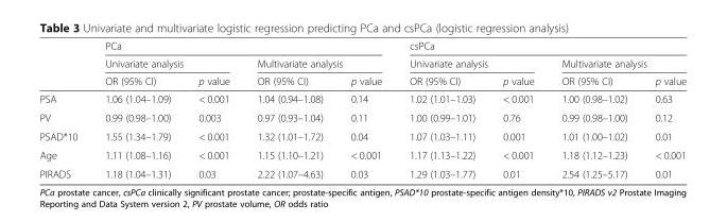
<table><thead><tr><td rowspan="3"></td><td colspan="4">PCa</td><td colspan="4">csPCa</td></tr><tr><td colspan="2">Univariate analysis</td><td colspan="2">Multivariate analysis</td><td colspan="2">Univariate analysis</td><td colspan="2">Multivariate analysis</td></tr><tr><td>OR (95% CI)</td><td>p value</td><td>OR (95% CI)</td><td>p value</td><td>OR (95% CI)</td><td>p value</td><td>OR (95% CI)</td><td>p value</td></tr></thead><tbody><tr><td>PSA</td><td>1.06 (1.04–1.09)</td><td>&lt; 0.001</td><td>1.04 (0.94–1.08)</td><td>0.14</td><td>1.02 (1.01–1.03)</td><td>&lt; 0.001</td><td>1.00 (0.98–1.02)</td><td>0.63</td></tr><tr><td>PV</td><td>0.99 (0.98–1.00)</td><td>0.003</td><td>0.97 (0.93–1.04)</td><td>0.11</td><td>1.00 (0.99–1.01)</td><td>0.76</td><td>0.99 (0.98–1.00)</td><td>0.12</td></tr><tr><td>PSAD*10</td><td>1.55 (1.34–1.79)</td><td>&lt; 0.001</td><td>1.32 (1.01–1.72)</td><td>0.04</td><td>1.07 (1.03–1.11)</td><td>0.001</td><td>1.01 (1.00–1.02)</td><td>0.01</td></tr><tr><td>Age</td><td>1.11 (1.08–1.16)</td><td>&lt; 0.001</td><td>1.15 (1.10–1.21)</td><td>&lt; 0.001</td><td>1.17 (1.13–1.22)</td><td>&lt; 0.001</td><td>1.18 (1.12–1.23)</td><td>&lt; 0.001</td></tr><tr><td>PIRADS</td><td>1.18 (1.04–1.31)</td><td>0.03</td><td>2.22 (1.07–4.63)</td><td>0.03</td><td>1.29 (1.03–1.77)</td><td>0.01</td><td>2.54 (1.25–5.17)</td><td>0.01</td></tr></tbody></table>